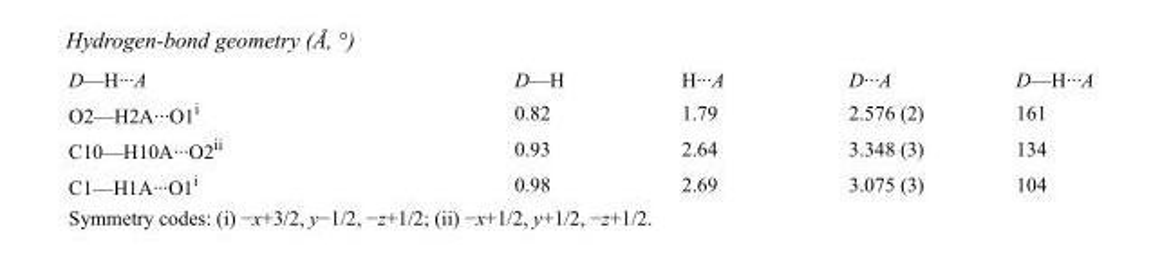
<table><tbody><tr><td>D—H···A</td><td>D—H</td><td>H···A</td><td>D···A</td><td>D—H···A</td></tr><tr><td>O2—H2A···O1<sup>i</sup></td><td>0.82</td><td>1.79</td><td>2.576 (2)</td><td>161</td></tr><tr><td>C10—H10A···O2<sup>ii</sup></td><td>0.93</td><td>2.64</td><td>3.348 (3)</td><td>134</td></tr><tr><td>C1—H1A···O1<sup>i</sup></td><td>0.98</td><td>2.69</td><td>3.075 (3)</td><td>104</td></tr></tbody></table>